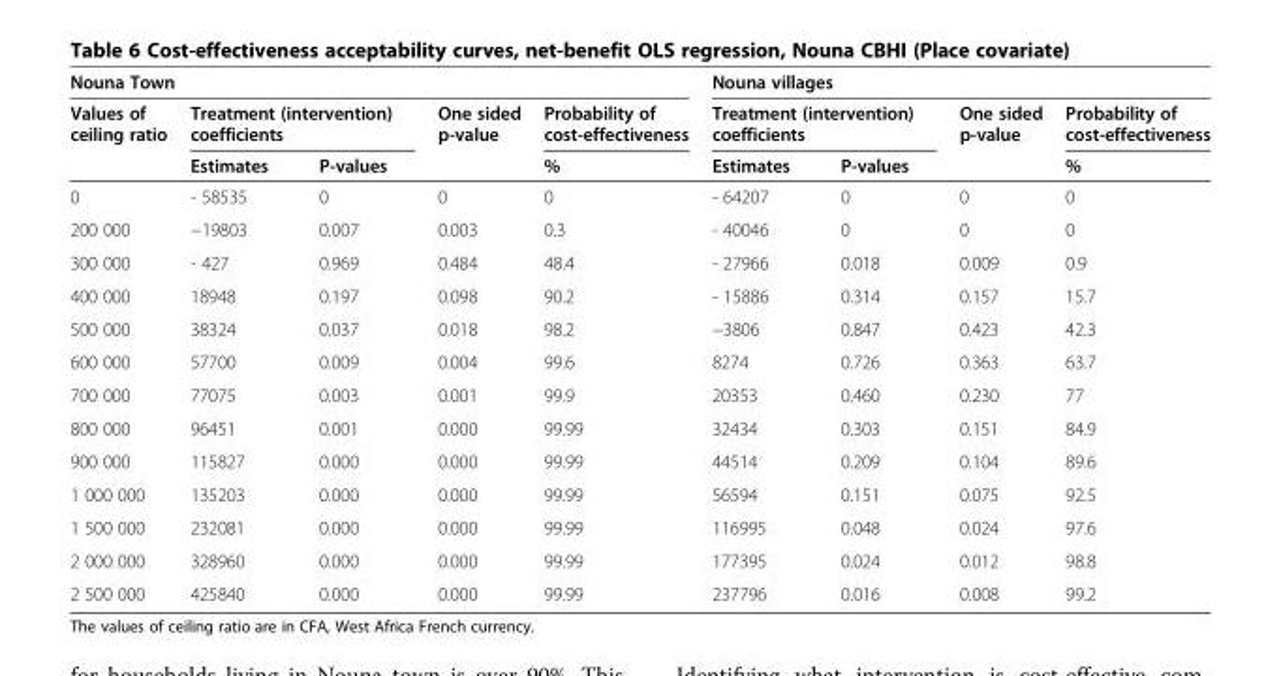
<table><thead><tr><td colspan="5">Nouna Town</td><td colspan="4">Nouna villages</td></tr><tr><td rowspan="2">Values of ceiling ratio</td><td colspan="2">Treatment (intervention) coefficients</td><td rowspan="2">One sided p-value</td><td rowspan="2">Probability of cost-effectiveness %</td><td colspan="2">Treatment (intervention) coefficients</td><td rowspan="2">One sided p-value</td><td rowspan="2">Probability of cost-effectiveness %</td></tr><tr><td>Estimates</td><td>P-values</td><td>Estimates</td><td>P-values</td></tr></thead><tbody><tr><td>0</td><td>- 58535</td><td>0</td><td>0</td><td>0</td><td>- 64207</td><td>0</td><td>0</td><td>0</td></tr><tr><td>200 000</td><td>−19803</td><td>0.007</td><td>0.003</td><td>0.3</td><td>- 40046</td><td>0</td><td>0</td><td>0</td></tr><tr><td>300 000</td><td>- 427</td><td>0.969</td><td>0.484</td><td>48.4</td><td>- 27966</td><td>0.018</td><td>0.009</td><td>0.9</td></tr><tr><td>400 000</td><td>18948</td><td>0.197</td><td>0.098</td><td>90.2</td><td>- 15886</td><td>0.314</td><td>0.157</td><td>15.7</td></tr><tr><td>500 000</td><td>38324</td><td>0.037</td><td>0.018</td><td>98.2</td><td>−3806</td><td>0.847</td><td>0.423</td><td>42.3</td></tr><tr><td>600 000</td><td>57700</td><td>0.009</td><td>0.004</td><td>99.6</td><td>8274</td><td>0.726</td><td>0.363</td><td>63.7</td></tr><tr><td>700 000</td><td>77075</td><td>0.003</td><td>0.001</td><td>99.9</td><td>20353</td><td>0.460</td><td>0.230</td><td>77</td></tr><tr><td>800 000</td><td>96451</td><td>0.001</td><td>0.000</td><td>99.99</td><td>32434</td><td>0.303</td><td>0.151</td><td>84.9</td></tr><tr><td>900 000</td><td>115827</td><td>0.000</td><td>0.000</td><td>99.99</td><td>44514</td><td>0.209</td><td>0.104</td><td>89.6</td></tr><tr><td>1 000 000</td><td>135203</td><td>0.000</td><td>0.000</td><td>99.99</td><td>56594</td><td>0.151</td><td>0.075</td><td>92.5</td></tr><tr><td>1 500 000</td><td>232081</td><td>0.000</td><td>0.000</td><td>99.99</td><td>116995</td><td>0.048</td><td>0.024</td><td>97.6</td></tr><tr><td>2 000 000</td><td>328960</td><td>0.000</td><td>0.000</td><td>99.99</td><td>177395</td><td>0.024</td><td>0.012</td><td>98.8</td></tr><tr><td>2 500 000</td><td>425840</td><td>0.000</td><td>0.000</td><td>99.99</td><td>237796</td><td>0.016</td><td>0.008</td><td>99.2</td></tr></tbody></table>